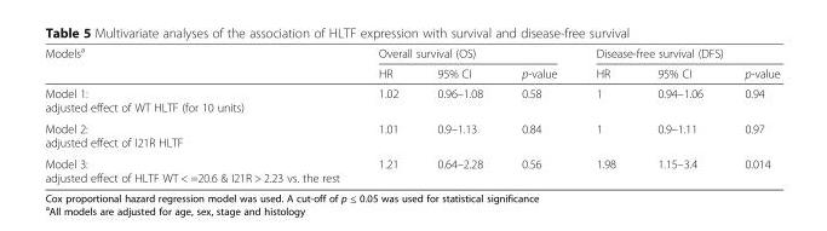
<table><thead><tr><td rowspan="2">Models<sup>a</sup></td><td colspan="3">Overall survival (OS)</td><td colspan="3">Disease-free survival (DFS)</td></tr><tr><td>HR</td><td>95% CI</td><td>p-value</td><td>HR</td><td>95% CI</td><td>p-value</td></tr></thead><tbody><tr><td>Model 1: adjusted effect of WT HLTF (for 10 units)</td><td>1.02</td><td>0.96–1.08</td><td>0.58</td><td>1</td><td>0.94–1.06</td><td>0.94</td></tr><tr><td>Model 2: adjusted effect of I21R HLTF</td><td>1.01</td><td>0.9–1.13</td><td>0.84</td><td>1</td><td>0.9–1.11</td><td>0.97</td></tr><tr><td>Model 3: adjusted effect of HLTF WT &lt; =20.6 &amp; I21R &gt; 2.23 vs. the rest</td><td>1.21</td><td>0.64–2.28</td><td>0.56</td><td>1.98</td><td>1.15–3.4</td><td>0.014</td></tr></tbody></table>